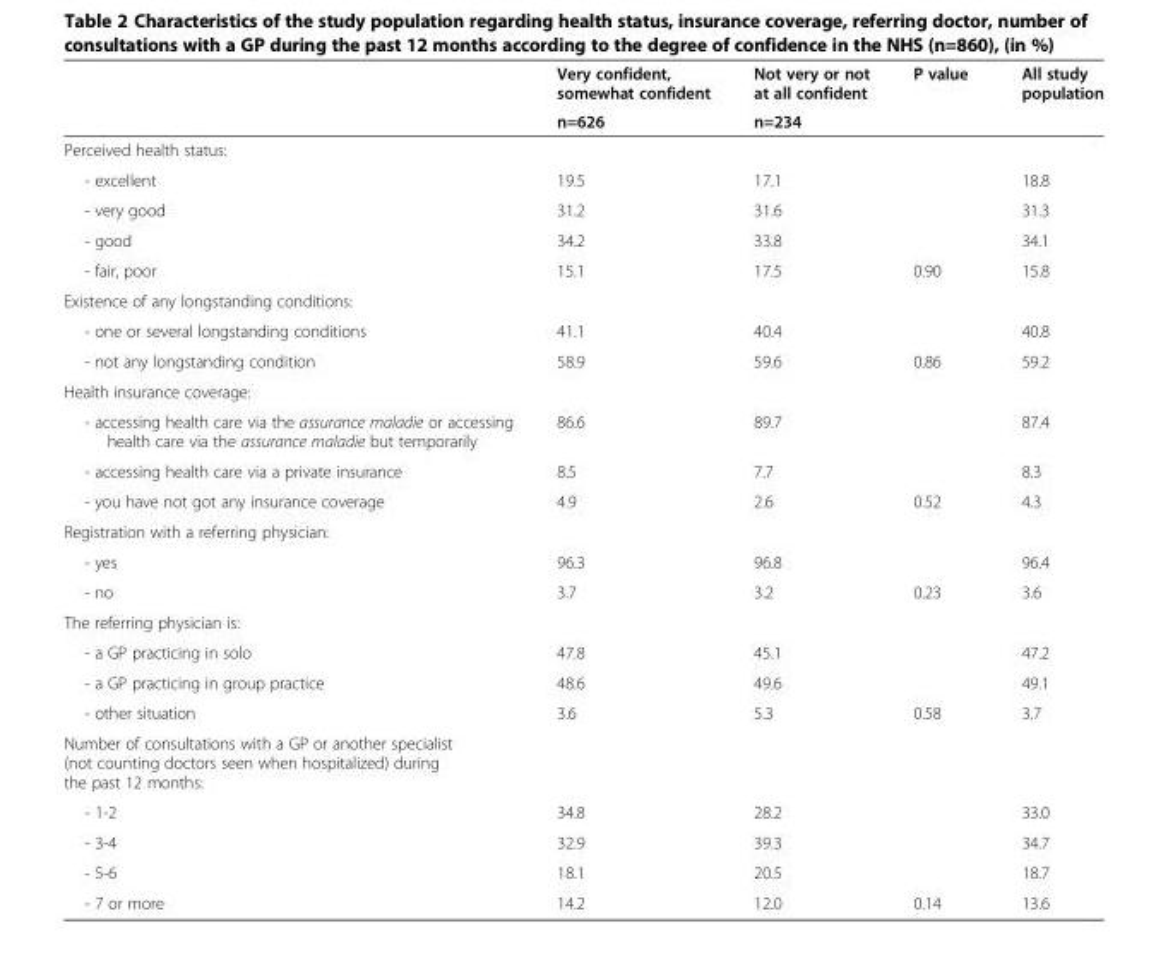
<table><thead><tr><td rowspan="2"></td><td rowspan="2">Very confident, somewhat confident n=626</td><td rowspan="2">Not very or not at all confident n=234</td><td rowspan="2">P value</td><td rowspan="2">All study population</td></tr><tr></tr></thead><tbody><tr><td colspan="5">Perceived health status:</td></tr><tr><td>- excellent</td><td>19.5</td><td>17.1</td><td></td><td>18.8</td></tr><tr><td>- very good</td><td>31.2</td><td>31.6</td><td></td><td>31.3</td></tr><tr><td>- good</td><td>34.2</td><td>33.8</td><td></td><td>34.1</td></tr><tr><td>- fair, poor</td><td>15.1</td><td>17.5</td><td>0.90</td><td>15.8</td></tr><tr><td colspan="5">Existence of any longstanding conditions:</td></tr><tr><td>- one or several longstanding conditions</td><td>41.1</td><td>40.4</td><td></td><td>40.8</td></tr><tr><td>- not any longstanding condition</td><td>58.9</td><td>59.6</td><td>0.86</td><td>59.2</td></tr><tr><td colspan="5">Health insurance coverage:</td></tr><tr><td>- accessing health care via the assurance maladie or accessing health care via the assurance maladie but temporarily</td><td>86.6</td><td>89.7</td><td></td><td>87.4</td></tr><tr><td>- accessing health care via a private insurance</td><td>8.5</td><td>7.7</td><td></td><td>8.3</td></tr><tr><td>- you have not got any insurance coverage</td><td>4.9</td><td>2.6</td><td>0.52</td><td>4.3</td></tr><tr><td colspan="5">Registration with a referring physician:</td></tr><tr><td>- yes</td><td>96.3</td><td>96.8</td><td></td><td>96.4</td></tr><tr><td>- no</td><td>3.7</td><td>3.2</td><td>0.23</td><td>3.6</td></tr><tr><td colspan="5">The referring physician is:</td></tr><tr><td>- a GP practicing in solo</td><td>47.8</td><td>45.1</td><td></td><td>47.2</td></tr><tr><td>- a GP practicing in group practice</td><td>48.6</td><td>49.6</td><td></td><td>49.1</td></tr><tr><td>- other situation</td><td>3.6</td><td>5.3</td><td>0.58</td><td>3.7</td></tr><tr><td colspan="5">Number of consultations with a GP or another specialist (not counting doctors seen when hospitalized) during the past 12 months:</td></tr><tr><td>- 1-2</td><td>34.8</td><td>28.2</td><td></td><td>33.0</td></tr><tr><td>- 3-4</td><td>32.9</td><td>39.3</td><td></td><td>34.7</td></tr><tr><td>- 5-6</td><td>18.1</td><td>20.5</td><td></td><td>18.7</td></tr><tr><td>- 7 or more</td><td>14.2</td><td>12.0</td><td>0.14</td><td>13.6</td></tr></tbody></table>